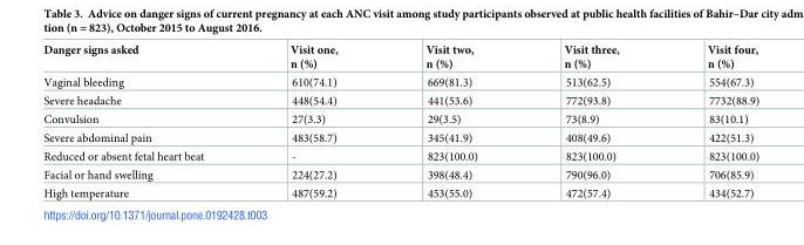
<table><thead><tr><td>Danger signs asked</td><td>Visit one, n (%)</td><td>Visit two, n (%)</td><td>Visit three, n (%)</td><td>Visit four, n (%)</td></tr></thead><tbody><tr><td>Vaginal bleeding</td><td>610(74.1)</td><td>669(81.3)</td><td>513(62.5)</td><td>554(67.3)</td></tr><tr><td>Severe headache</td><td>448(54.4)</td><td>441(53.6)</td><td>772(93.8)</td><td>7732(88.9)</td></tr><tr><td>Convulsion</td><td>27(3.3)</td><td>29(3.5)</td><td>73(8.9)</td><td>83(10.1)</td></tr><tr><td>Severe abdominal pain</td><td>483(58.7)</td><td>345(41.9)</td><td>408(49.6)</td><td>422(51.3)</td></tr><tr><td>Reduced or absent fetal heart beat</td><td>-</td><td>823(100.0)</td><td>823(100.0)</td><td>823(100.0)</td></tr><tr><td>Facial or hand swelling</td><td>224(27.2)</td><td>398(48.4)</td><td>790(96.0)</td><td>706(85.9)</td></tr><tr><td>High temperature</td><td>487(59.2)</td><td>453(55.0)</td><td>472(57.4)</td><td>434(52.7)</td></tr></tbody></table>